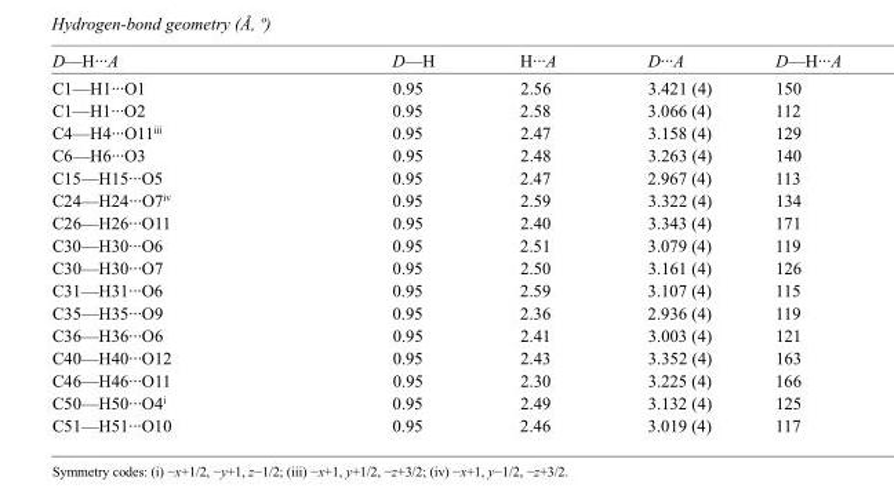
<table><tbody><tr><td>D—H···A</td><td>D—H</td><td>H···A</td><td>D···A</td><td>D—H···A</td></tr><tr><td>C1—H1···O1</td><td>0.95</td><td>2.56</td><td>3.421 (4)</td><td>150</td></tr><tr><td>C1—H1···O2</td><td>0.95</td><td>2.58</td><td>3.066 (4)</td><td>112</td></tr><tr><td>C4—H4···O11<sup>iii</sup></td><td>0.95</td><td>2.47</td><td>3.158 (4)</td><td>129</td></tr><tr><td>C6—H6···O3</td><td>0.95</td><td>2.48</td><td>3.263 (4)</td><td>140</td></tr><tr><td>C15—H15···O5</td><td>0.95</td><td>2.47</td><td>2.967 (4)</td><td>113</td></tr><tr><td>C24—H24···O7<sup>iv</sup></td><td>0.95</td><td>2.59</td><td>3.322 (4)</td><td>134</td></tr><tr><td>C26—H26···O11</td><td>0.95</td><td>2.40</td><td>3.343 (4)</td><td>171</td></tr><tr><td>C30—H30···O6</td><td>0.95</td><td>2.51</td><td>3.079 (4)</td><td>119</td></tr><tr><td>C30—H30···O7</td><td>0.95</td><td>2.50</td><td>3.161 (4)</td><td>126</td></tr><tr><td>C31—H31···O6</td><td>0.95</td><td>2.59</td><td>3.107 (4)</td><td>115</td></tr><tr><td>C35—H35···O9</td><td>0.95</td><td>2.36</td><td>2.936 (4)</td><td>119</td></tr><tr><td>C36—H36···O6</td><td>0.95</td><td>2.41</td><td>3.003 (4)</td><td>121</td></tr><tr><td>C40—H40···O12</td><td>0.95</td><td>2.43</td><td>3.352 (4)</td><td>163</td></tr><tr><td>C46—H46···O11</td><td>0.95</td><td>2.30</td><td>3.225 (4)</td><td>166</td></tr><tr><td>C50—H50···O4<sup>i</sup></td><td>0.95</td><td>2.49</td><td>3.132 (4)</td><td>125</td></tr><tr><td>C51—H51···O10</td><td>0.95</td><td>2.46</td><td>3.019 (4)</td><td>117</td></tr></tbody></table>